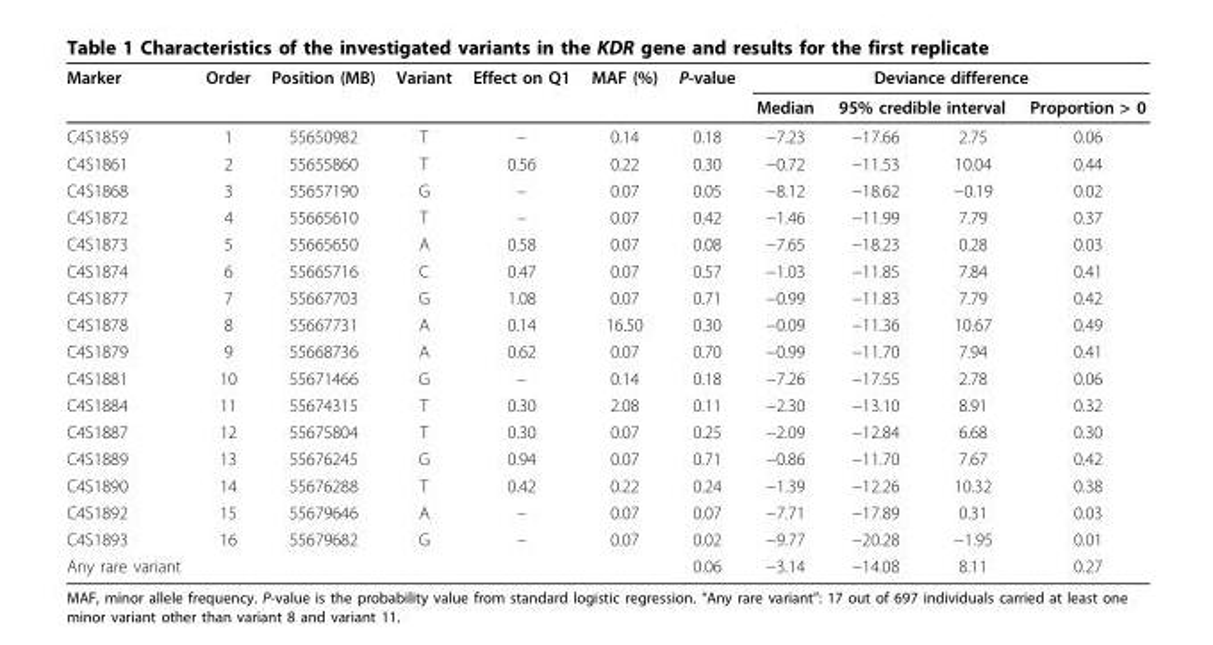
<table><thead><tr><td rowspan="3">Marker C4S1859</td><td rowspan="3">Order 1</td><td rowspan="3">Position (MB) 55650982</td><td rowspan="3">Variant T</td><td rowspan="3">Effect on Q1 –</td><td rowspan="3">MAF (%) 0.14</td><td rowspan="3">P-value 0.18</td><td colspan="4">Deviance difference</td></tr><tr><td rowspan="2">Median −7.23</td><td colspan="2">95% credible interval</td><td rowspan="2">Proportion &gt; 0 0.06</td></tr><tr><td>−17.66</td><td>2.75</td></tr></thead><tbody><tr><td>C4S1861</td><td>2</td><td>55655860</td><td>T</td><td>0.56</td><td>0.22</td><td>0.30</td><td>−0.72</td><td>−11.53</td><td>10.04</td><td>0.44</td></tr><tr><td>C4S1868</td><td>3</td><td>55657190</td><td>G</td><td>–</td><td>0.07</td><td>0.05</td><td>−8.12</td><td>−18.62</td><td>−0.19</td><td>0.02</td></tr><tr><td>C4S1872</td><td>4</td><td>55665610</td><td>T</td><td>–</td><td>0.07</td><td>0.42</td><td>−1.46</td><td>−11.99</td><td>7.79</td><td>0.37</td></tr><tr><td>C4S1873</td><td>5</td><td>55665650</td><td>A</td><td>0.58</td><td>0.07</td><td>0.08</td><td>−7.65</td><td>−18.23</td><td>0.28</td><td>0.03</td></tr><tr><td>C4S1874</td><td>6</td><td>55665716</td><td>C</td><td>0.47</td><td>0.07</td><td>0.57</td><td>−1.03</td><td>−11.85</td><td>7.84</td><td>0.41</td></tr><tr><td>C4S1877</td><td>7</td><td>55667703</td><td>G</td><td>1.08</td><td>0.07</td><td>0.71</td><td>−0.99</td><td>−11.83</td><td>7.79</td><td>0.42</td></tr><tr><td>C4S1878</td><td>8</td><td>55667731</td><td>A</td><td>0.14</td><td>16.50</td><td>0.30</td><td>−0.09</td><td>−11.36</td><td>10.67</td><td>0.49</td></tr><tr><td>C4S1879</td><td>9</td><td>55668736</td><td>A</td><td>0.62</td><td>0.07</td><td>0.70</td><td>−0.99</td><td>−11.70</td><td>7.94</td><td>0.41</td></tr><tr><td>C4S1881</td><td>10</td><td>55671466</td><td>G</td><td>–</td><td>0.14</td><td>0.18</td><td>−7.26</td><td>−17.55</td><td>2.78</td><td>0.06</td></tr><tr><td>C4S1884</td><td>11</td><td>55674315</td><td>T</td><td>0.30</td><td>2.08</td><td>0.11</td><td>−2.30</td><td>−13.10</td><td>8.91</td><td>0.32</td></tr><tr><td>C4S1887</td><td>12</td><td>55675804</td><td>T</td><td>0.30</td><td>0.07</td><td>0.25</td><td>−2.09</td><td>−12.84</td><td>6.68</td><td>0.30</td></tr><tr><td>C4S1889</td><td>13</td><td>55676245</td><td>G</td><td>0.94</td><td>0.07</td><td>0.71</td><td>−0.86</td><td>−11.70</td><td>7.67</td><td>0.42</td></tr><tr><td>C4S1890</td><td>14</td><td>55676288</td><td>T</td><td>0.42</td><td>0.22</td><td>0.24</td><td>−1.39</td><td>−12.26</td><td>10.32</td><td>0.38</td></tr><tr><td>C4S1892</td><td>15</td><td>55679646</td><td>A</td><td>–</td><td>0.07</td><td>0.07</td><td>−7.71</td><td>−17.89</td><td>0.31</td><td>0.03</td></tr><tr><td>C4S1893</td><td>16</td><td>55679682</td><td>G</td><td>–</td><td>0.07</td><td>0.02</td><td>−9.77</td><td>−20.28</td><td>−1.95</td><td>0.01</td></tr><tr><td>Any rare variant</td><td></td><td></td><td></td><td></td><td></td><td>0.06</td><td>−3.14</td><td>−14.08</td><td>8.11</td><td>0.27</td></tr></tbody></table>